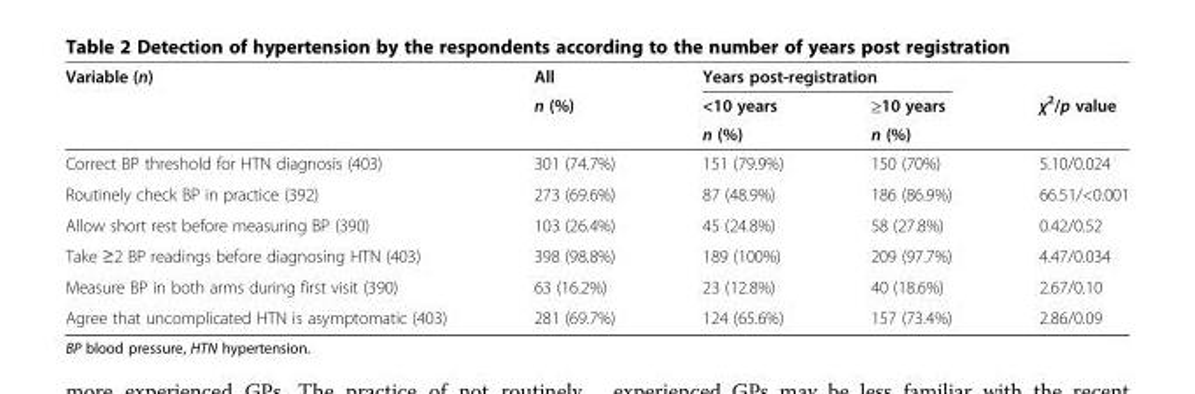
<table><thead><tr><td rowspan="3">Variable (n)</td><td rowspan="3">All n (%)</td><td colspan="2">Years post-registration</td><td rowspan="3">χ<sup>2</sup>/p value</td></tr><tr><td rowspan="2">&lt;10 years n (%)</td><td rowspan="2">≥10 years n (%)</td></tr><tr></tr></thead><tbody><tr><td>Correct BP threshold for HTN diagnosis (403)</td><td>301 (74.7%)</td><td>151 (79.9%)</td><td>150 (70%)</td><td>5.10/0.024</td></tr><tr><td>Routinely check BP in practice (392)</td><td>273 (69.6%)</td><td>87 (48.9%)</td><td>186 (86.9%)</td><td>66.51/&lt;0.001</td></tr><tr><td>Allow short rest before measuring BP (390)</td><td>103 (26.4%)</td><td>45 (24.8%)</td><td>58 (27.8%)</td><td>0.42/0.52</td></tr><tr><td>Take ≥2 BP readings before diagnosing HTN (403)</td><td>398 (98.8%)</td><td>189 (100%)</td><td>209 (97.7%)</td><td>4.47/0.034</td></tr><tr><td>Measure BP in both arms during first visit (390)</td><td>63 (16.2%)</td><td>23 (12.8%)</td><td>40 (18.6%)</td><td>2.67/0.10</td></tr><tr><td>Agree that uncomplicated HTN is asymptomatic (403)</td><td>281 (69.7%)</td><td>124 (65.6%)</td><td>157 (73.4%)</td><td>2.86/0.09</td></tr></tbody></table>